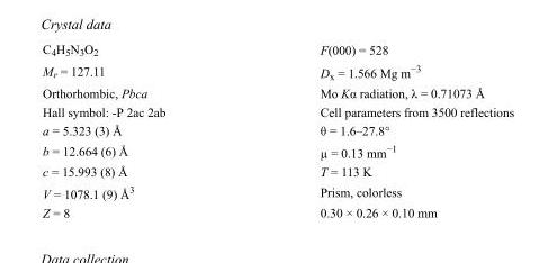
<table><tbody><tr><td>C<sub>4</sub>H<sub>5</sub>N<sub>3</sub>O<sub>2</sub></td><td>F(000) = 528</td></tr><tr><td>M<sub>r</sub> = 127.11</td><td>D<sub>x</sub> = 1.566 Mg m<sup>−3</sup></td></tr><tr><td>Orthorhombic, Pbca</td><td>Mo Kα radiation, λ = 0.71073 Å</td></tr><tr><td>Hall symbol: -P 2ac 2ab</td><td>Cell parameters from 3500 reflections</td></tr><tr><td>a = 5.323 (3) Å</td><td>θ = 1.6–27.8°</td></tr><tr><td>b = 12.664 (6) Å</td><td>µ = 0.13 mm<sup>−1</sup></td></tr><tr><td>c = 15.993 (8) Å</td><td>T = 113 K</td></tr><tr><td>V = 1078.1 (9) Å<sup>3</sup></td><td>Prism, colorless</td></tr><tr><td>Z = 8</td><td>0.30 × 0.26 × 0.10 mm</td></tr></tbody></table>